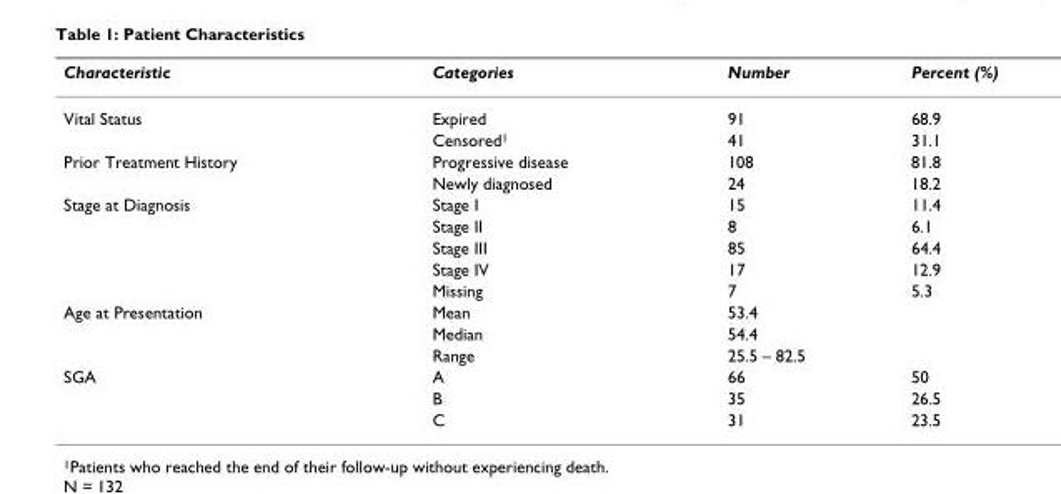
<table><thead><tr><td>Characteristic</td><td>Categories</td><td>Number</td><td>Percent (%)</td></tr></thead><tbody><tr><td rowspan="2">Vital Status</td><td>Expired</td><td>91</td><td>68.9</td></tr><tr><td>Censored<sup>1</sup></td><td>41</td><td>31.1</td></tr><tr><td rowspan="2">Prior Treatment History</td><td>Progressive disease</td><td>108</td><td>81.8</td></tr><tr><td>Newly diagnosed</td><td>24</td><td>18.2</td></tr><tr><td rowspan="5">Stage at Diagnosis</td><td>Stage I</td><td>15</td><td>11.4</td></tr><tr><td>Stage II</td><td>8</td><td>6.1</td></tr><tr><td>Stage III</td><td>85</td><td>64.4</td></tr><tr><td>Stage IV</td><td>17</td><td>12.9</td></tr><tr><td>Missing</td><td>7</td><td>5.3</td></tr><tr><td rowspan="3">Age at Presentation</td><td>Mean</td><td>53.4</td><td></td></tr><tr><td>Median</td><td>54.4</td><td></td></tr><tr><td>Range</td><td>25.5 – 82.5</td><td></td></tr><tr><td rowspan="3">SGA</td><td>A</td><td>66</td><td>50</td></tr><tr><td>B</td><td>35</td><td>26.5</td></tr><tr><td>C</td><td>31</td><td>23.5</td></tr></tbody></table>